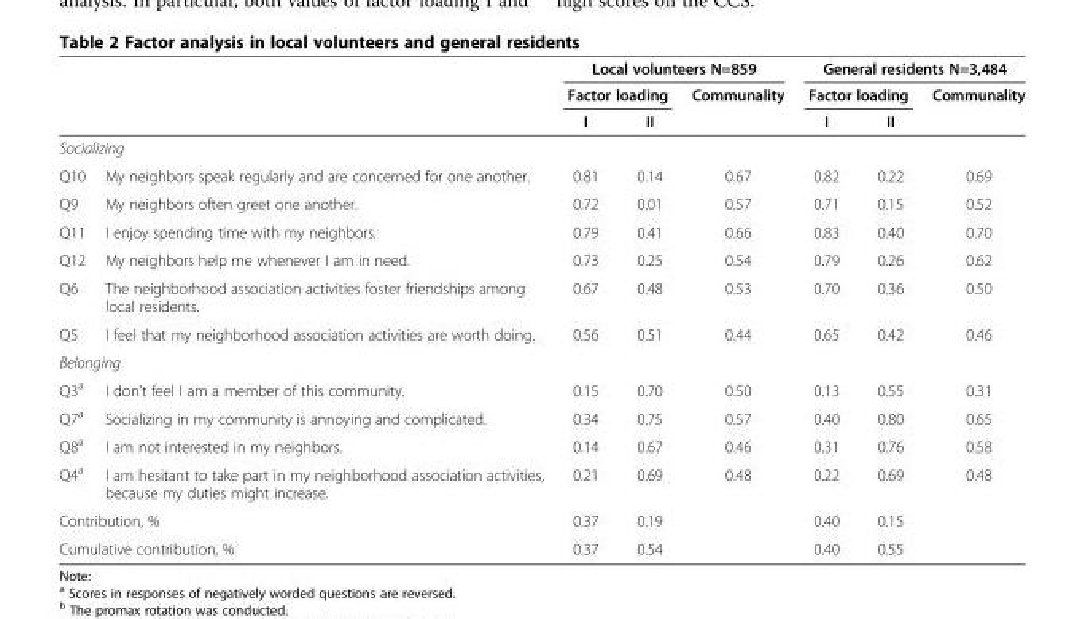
<table><thead><tr><td rowspan="3"></td><td rowspan="3"></td><td colspan="3">Local volunteers N=859</td><td colspan="3">General residents N=3,484</td></tr><tr><td colspan="2">Factor loading</td><td rowspan="2">Communality</td><td colspan="2">Factor loading</td><td rowspan="2">Communality</td></tr><tr><td>I</td><td>II</td><td>I</td><td>II</td></tr></thead><tbody><tr><td colspan="8">Socializing</td></tr><tr><td>Q10</td><td>My neighbors speak regularly and are concerned for one another.</td><td>0.81</td><td>0.14</td><td>0.67</td><td>0.82</td><td>0.22</td><td>0.69</td></tr><tr><td>Q9</td><td>My neighbors often greet one another.</td><td>0.72</td><td>0.01</td><td>0.57</td><td>0.71</td><td>0.15</td><td>0.52</td></tr><tr><td>Q11</td><td>I enjoy spending time with my neighbors.</td><td>0.79</td><td>0.41</td><td>0.66</td><td>0.83</td><td>0.40</td><td>0.70</td></tr><tr><td>Q12</td><td>My neighbors help me whenever I am in need.</td><td>0.73</td><td>0.25</td><td>0.54</td><td>0.79</td><td>0.26</td><td>0.62</td></tr><tr><td>Q6</td><td>The neighborhood association activities foster friendships among local residents.</td><td>0.67</td><td>0.48</td><td>0.53</td><td>0.70</td><td>0.36</td><td>0.50</td></tr><tr><td>Q5</td><td>I feel that my neighborhood association activities are worth doing.</td><td>0.56</td><td>0.51</td><td>0.44</td><td>0.65</td><td>0.42</td><td>0.46</td></tr><tr><td colspan="8">Belonging</td></tr><tr><td>Q3<sup>a</sup></td><td>I don’t feel I am a member of this community.</td><td>0.15</td><td>0.70</td><td>0.50</td><td>0.13</td><td>0.55</td><td>0.31</td></tr><tr><td>Q7<sup>a</sup></td><td>Socializing in my community is annoying and complicated.</td><td>0.34</td><td>0.75</td><td>0.57</td><td>0.40</td><td>0.80</td><td>0.65</td></tr><tr><td>Q8<sup>a</sup></td><td>I am not interested in my neighbors.</td><td>0.14</td><td>0.67</td><td>0.46</td><td>0.31</td><td>0.76</td><td>0.58</td></tr><tr><td>Q4<sup>a</sup></td><td>I am hesitant to take part in my neighborhood association activities, because my duties might increase.</td><td>0.21</td><td>0.69</td><td>0.48</td><td>0.22</td><td>0.69</td><td>0.48</td></tr><tr><td colspan="2">Contribution, %</td><td>0.37</td><td>0.19</td><td></td><td>0.40</td><td>0.15</td><td></td></tr><tr><td colspan="2">Cumulative contribution, %</td><td>0.37</td><td>0.54</td><td></td><td>0.40</td><td>0.55</td><td></td></tr></tbody></table>